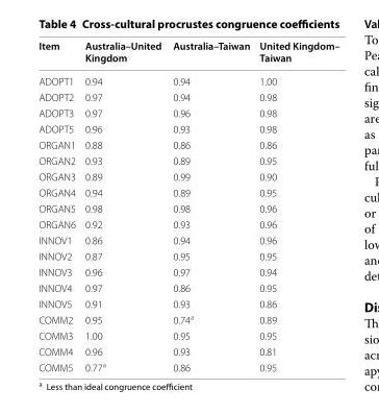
<table><thead><tr><td>Item</td><td>Australia–United Kingdom</td><td>Australia–Taiwan</td><td>United Kingdom– Taiwan</td></tr></thead><tbody><tr><td>ADOPT1</td><td>0.94</td><td>0.94</td><td>1.00</td></tr><tr><td>ADOPT2</td><td>0.97</td><td>0.94</td><td>0.98</td></tr><tr><td>ADOPT3</td><td>0.97</td><td>0.96</td><td>0.98</td></tr><tr><td>ADOPT5</td><td>0.96</td><td>0.93</td><td>0.98</td></tr><tr><td>ORGAN1</td><td>0.88</td><td>0.86</td><td>0.86</td></tr><tr><td>ORGAN2</td><td>0.93</td><td>0.89</td><td>0.95</td></tr><tr><td>ORGAN3</td><td>0.89</td><td>0.99</td><td>0.90</td></tr><tr><td>ORGAN4</td><td>0.94</td><td>0.89</td><td>0.95</td></tr><tr><td>ORGAN5</td><td>0.98</td><td>0.98</td><td>0.96</td></tr><tr><td>ORGAN6</td><td>0.92</td><td>0.93</td><td>0.96</td></tr><tr><td>INNOV1</td><td>0.86</td><td>0.94</td><td>0.96</td></tr><tr><td>INNOV2</td><td>0.87</td><td>0.95</td><td>0.95</td></tr><tr><td>INNOV3</td><td>0.96</td><td>0.97</td><td>0.94</td></tr><tr><td>INNOV4</td><td>0.97</td><td>0.86</td><td>0.95</td></tr><tr><td>INNOV5</td><td>0.91</td><td>0.93</td><td>0.86</td></tr><tr><td>COMM2</td><td>0.95</td><td>0.74<sup>a</sup></td><td>0.89</td></tr><tr><td>COMM3</td><td>1.00</td><td>0.95</td><td>0.95</td></tr><tr><td>COMM4</td><td>0.96</td><td>0.93</td><td>0.81</td></tr><tr><td>COMM5</td><td>0.77<sup>a</sup></td><td>0.86</td><td>0.95</td></tr></tbody></table>